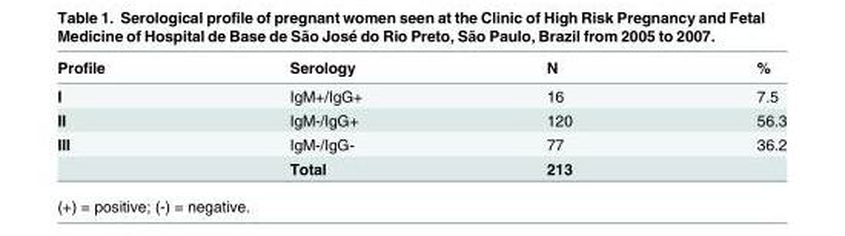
<table><thead><tr><td>Profile</td><td>Serology</td><td>N</td><td>%</td></tr></thead><tbody><tr><td>I</td><td>IgM+/IgG+</td><td>16</td><td>7.5</td></tr><tr><td>II</td><td>IgM-/IgG+</td><td>120</td><td>56.3</td></tr><tr><td rowspan="2">III</td><td>IgM-/IgG-</td><td>77</td><td>36.2</td></tr><tr><td>Total</td><td>213</td><td></td></tr></tbody></table>